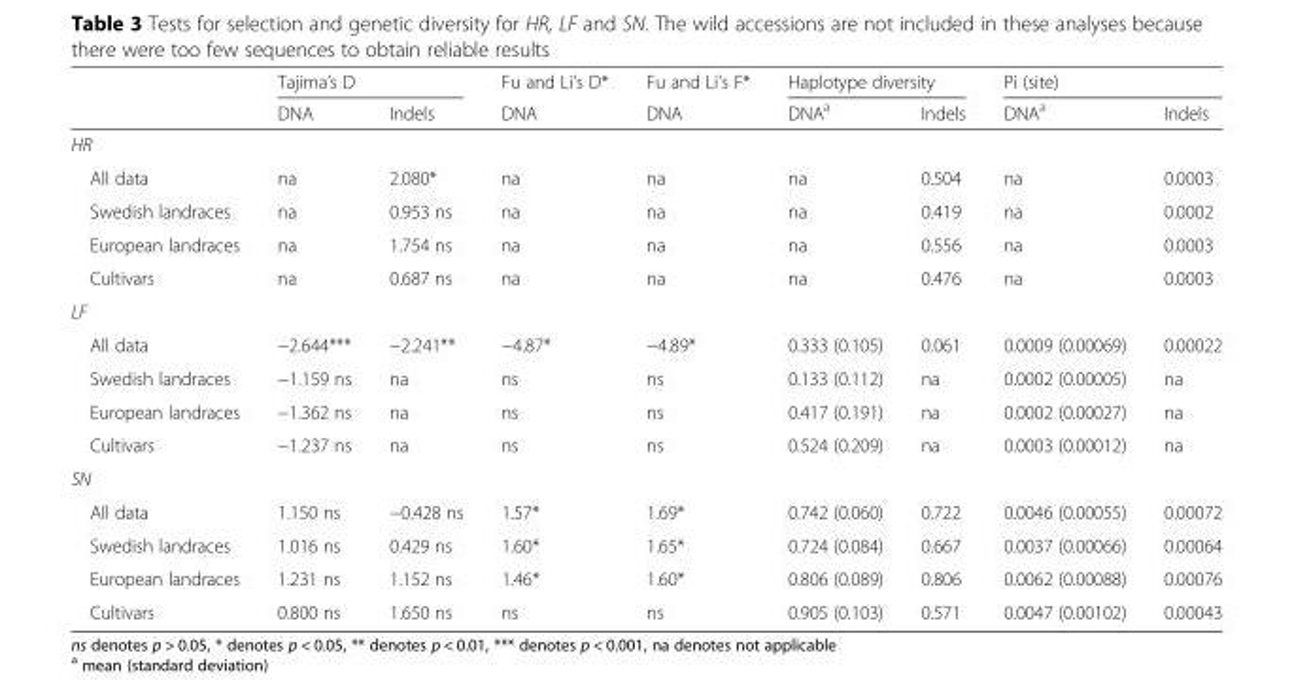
<table><thead><tr><td rowspan="2"></td><td colspan="2">Tajima’s D</td><td rowspan="2">Fu and Li’s D* DNA</td><td rowspan="2">Fu and Li’s F* DNA</td><td colspan="2">Haplotype diversity</td><td colspan="2">Pi (site)</td></tr><tr><td>DNA</td><td>Indels</td><td>DNA<sup>a</sup></td><td>Indels</td><td>DNA<sup>a</sup></td><td>Indels</td></tr></thead><tbody><tr><td colspan="9">HR</td></tr><tr><td>All data</td><td>na</td><td>2.080*</td><td>na</td><td>na</td><td>na</td><td>0.504</td><td>na</td><td>0.0003</td></tr><tr><td>Swedish landraces</td><td>na</td><td>0.953 ns</td><td>na</td><td>na</td><td>na</td><td>0.419</td><td>na</td><td>0.0002</td></tr><tr><td>European landraces</td><td>na</td><td>1.754 ns</td><td>na</td><td>na</td><td>na</td><td>0.556</td><td>na</td><td>0.0003</td></tr><tr><td>Cultivars</td><td>na</td><td>0.687 ns</td><td>na</td><td>na</td><td>na</td><td>0.476</td><td>na</td><td>0.0003</td></tr><tr><td colspan="9">LF</td></tr><tr><td>All data</td><td>−2.644***</td><td>−2.241**</td><td>−4.87*</td><td>−4.89*</td><td>0.333 (0.105)</td><td>0.061</td><td>0.0009 (0.00069)</td><td>0.00022</td></tr><tr><td>Swedish landraces</td><td>−1.159 ns</td><td>na</td><td>ns</td><td>ns</td><td>0.133 (0.112)</td><td>na</td><td>0.0002 (0.00005)</td><td>na</td></tr><tr><td>European landraces</td><td>−1.362 ns</td><td>na</td><td>ns</td><td>ns</td><td>0.417 (0.191)</td><td>na</td><td>0.0002 (0.00027)</td><td>na</td></tr><tr><td>Cultivars</td><td>−1.237 ns</td><td>na</td><td>ns</td><td>ns</td><td>0.524 (0.209)</td><td>na</td><td>0.0003 (0.00012)</td><td>na</td></tr><tr><td colspan="9">SN</td></tr><tr><td>All data</td><td>1.150 ns</td><td>−0.428 ns</td><td>1.57*</td><td>1.69*</td><td>0.742 (0.060)</td><td>0.722</td><td>0.0046 (0.00055)</td><td>0.00072</td></tr><tr><td>Swedish landraces</td><td>1.016 ns</td><td>0.429 ns</td><td>1.60*</td><td>1.65*</td><td>0.724 (0.084)</td><td>0.667</td><td>0.0037 (0.00066)</td><td>0.00064</td></tr><tr><td>European landraces</td><td>1.231 ns</td><td>1.152 ns</td><td>1.46*</td><td>1.60*</td><td>0.806 (0.089)</td><td>0.806</td><td>0.0062 (0.00088)</td><td>0.00076</td></tr><tr><td>Cultivars</td><td>0.800 ns</td><td>1.650 ns</td><td>ns</td><td>ns</td><td>0.905 (0.103)</td><td>0.571</td><td>0.0047 (0.00102)</td><td>0.00043</td></tr></tbody></table>